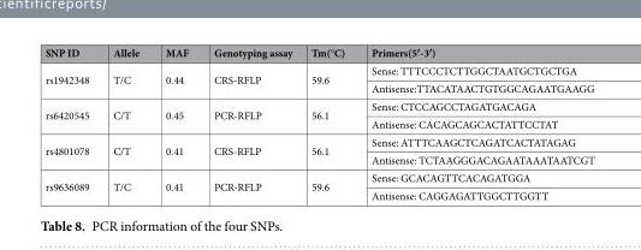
<table><thead><tr><td>SNP ID</td><td>Allele</td><td>MAF</td><td>Genotyping assay</td><td>Tm(°C)</td><td>Primers(5′-3′)</td></tr></thead><tbody><tr><td rowspan="2">rs1942348</td><td rowspan="2">T/C</td><td rowspan="2">0.44</td><td rowspan="2">CRS-RFLP</td><td rowspan="2">59.6</td><td>Sense: TTTCCCTCTTGGCTAATGCTGCTGA</td></tr><tr><td>Antisense:TTACATAACTGTGGCAGAATGAAGG</td></tr><tr><td rowspan="2">rs6420545</td><td rowspan="2">C/T</td><td rowspan="2">0.45</td><td rowspan="2">PCR-RFLP</td><td rowspan="2">56.1</td><td>Sense: CTCCAGCCTAGATGACAGA</td></tr><tr><td>Antisense: CACAGCAGCACTATTCCTAT</td></tr><tr><td rowspan="2">rs4801078</td><td rowspan="2">C/T</td><td rowspan="2">0.41</td><td rowspan="2">CRS-RFLP</td><td rowspan="2">56.1</td><td>Sense: ATTTCAAGCTCAGATCACTATAGAG</td></tr><tr><td>Antisense: TCTAAGGGACAGAATAAATAATCGT</td></tr><tr><td rowspan="2">rs9636089</td><td rowspan="2">T/C</td><td rowspan="2">0.41</td><td rowspan="2">PCR-RFLP</td><td rowspan="2">59.6</td><td>Sense: GCACAGTTCACAGATGGA</td></tr><tr><td>Antisense: CAGGAGATTGGCTTGGTT</td></tr></tbody></table>